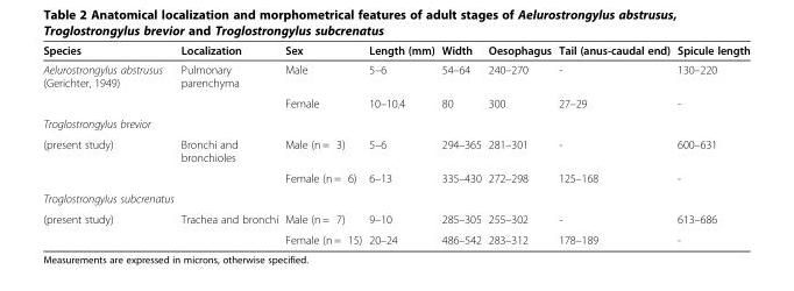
<table><thead><tr><td>Species</td><td>Localization</td><td>Sex</td><td>Length (mm)</td><td>Width</td><td>Oesophagus</td><td>Tail (anus-caudal end)</td><td>Spicule length</td></tr></thead><tbody><tr><td rowspan="2">Aelurostrongylus abstrusus (Gerichter, 1949)</td><td>Pulmonary parenchyma</td><td>Male</td><td>5–6</td><td>54–64</td><td>240–270</td><td>-</td><td>130–220</td></tr><tr><td></td><td>Female</td><td>10–10.4</td><td>80</td><td>300</td><td>27–29</td><td>-</td></tr><tr><td colspan="8">Troglostrongylus brevior</td></tr><tr><td rowspan="2">(present study)</td><td>Bronchi and bronchioles</td><td>Male (n = 3)</td><td>5–6</td><td>294–365</td><td>281–301</td><td>-</td><td>600–631</td></tr><tr><td></td><td>Female (n = 6)</td><td>6–13</td><td>335–430</td><td>272–298</td><td>125–168</td><td>-</td></tr><tr><td colspan="8">Troglostrongylus subcrenatus</td></tr><tr><td rowspan="2">(present study)</td><td>Trachea and bronchi</td><td>Male (n = 7)</td><td>9–10</td><td>285–305</td><td>255–302</td><td>-</td><td>613–686</td></tr><tr><td></td><td>Female (n = 15)</td><td>20–24</td><td>486–542</td><td>283–312</td><td>178–189</td><td>-</td></tr></tbody></table>